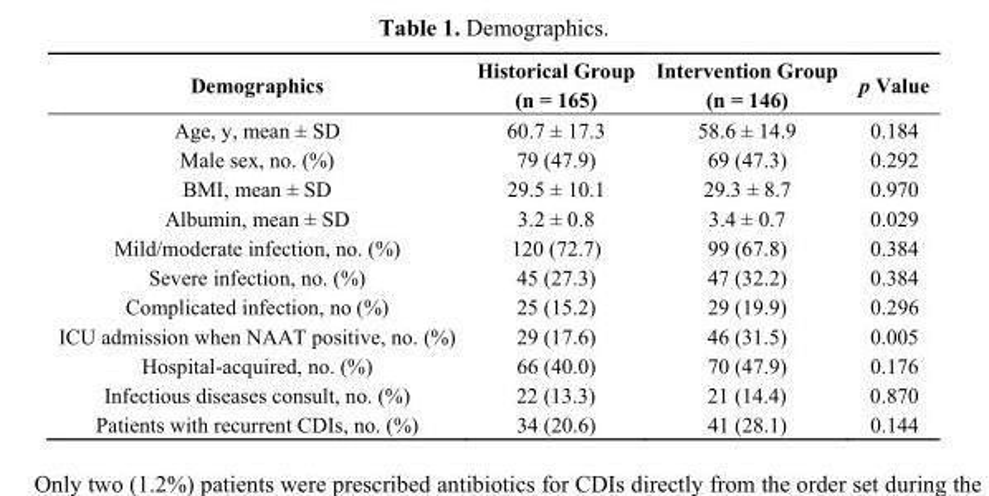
<table><thead><tr><td>Demographics</td><td>Historical Group (n = 165)</td><td>Intervention Group (n = 146)</td><td>p Value</td></tr></thead><tbody><tr><td>Age, y, mean ± SD</td><td>60.7 ± 17.3</td><td>58.6 ± 14.9</td><td>0.184</td></tr><tr><td>Male sex, no. (%)</td><td>79 (47.9)</td><td>69 (47.3)</td><td>0.292</td></tr><tr><td>BMI, mean ± SD</td><td>29.5 ± 10.1</td><td>29.3 ± 8.7</td><td>0.970</td></tr><tr><td>Albumin, mean ± SD</td><td>3.2 ± 0.8</td><td>3.4 ± 0.7</td><td>0.029</td></tr><tr><td>Mild/moderate infection, no. (%)</td><td>120 (72.7)</td><td>99 (67.8)</td><td>0.384</td></tr><tr><td>Severe infection, no. (%)</td><td>45 (27.3)</td><td>47 (32.2)</td><td>0.384</td></tr><tr><td>Complicated infection, no (%)</td><td>25 (15.2)</td><td>29 (19.9)</td><td>0.296</td></tr><tr><td>ICU admission when NAAT positive, no. (%)</td><td>29 (17.6)</td><td>46 (31.5)</td><td>0.005</td></tr><tr><td>Hospital-acquired, no. (%)</td><td>66 (40.0)</td><td>70 (47.9)</td><td>0.176</td></tr><tr><td>Infectious diseases consult, no. (%)</td><td>22 (13.3)</td><td>21 (14.4)</td><td>0.870</td></tr><tr><td>Patients with recurrent CDIs, no. (%)</td><td>34 (20.6)</td><td>41 (28.1)</td><td>0.144</td></tr></tbody></table>